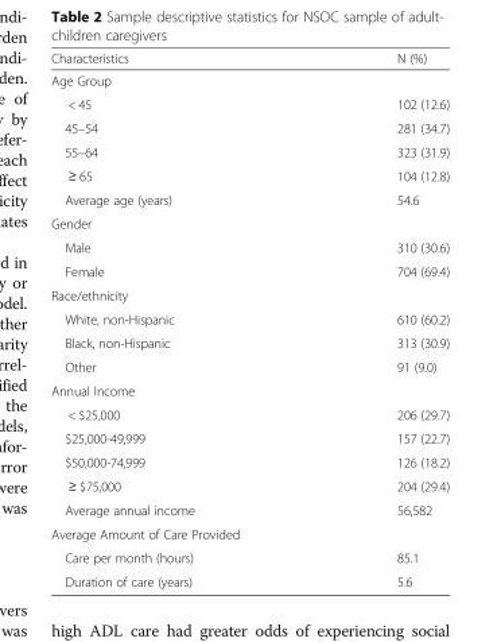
<table><thead><tr><td>Characteristics</td><td>N (%)</td></tr></thead><tbody><tr><td colspan="2">Age Group</td></tr><tr><td>&lt; 45</td><td>102 (12.6)</td></tr><tr><td>45–54</td><td>281 (34.7)</td></tr><tr><td>55–64</td><td>323 (31.9)</td></tr><tr><td>≥ 65</td><td>104 (12.8)</td></tr><tr><td>Average age (years)</td><td>54.6</td></tr><tr><td colspan="2">Gender</td></tr><tr><td>Male</td><td>310 (30.6)</td></tr><tr><td>Female</td><td>704 (69.4)</td></tr><tr><td colspan="2">Race/ethnicity</td></tr><tr><td>White, non-Hispanic</td><td>610 (60.2)</td></tr><tr><td>Black, non-Hispanic</td><td>313 (30.9)</td></tr><tr><td>Other</td><td>91 (9.0)</td></tr><tr><td colspan="2">Annual Income</td></tr><tr><td>&lt; $25,000</td><td>206 (29.7)</td></tr><tr><td>$25,000-49,999</td><td>157 (22.7)</td></tr><tr><td>$50,000-74,999</td><td>126 (18.2)</td></tr><tr><td>≥ $75,000</td><td>204 (29.4)</td></tr><tr><td>Average annual income</td><td>56,582</td></tr><tr><td colspan="2">Average Amount of Care Provided</td></tr><tr><td>Care per month (hours)</td><td>85.1</td></tr><tr><td>Duration of care (years)</td><td>5.6</td></tr></tbody></table>